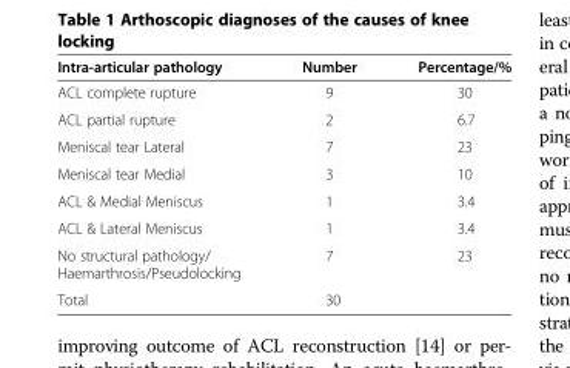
<table><thead><tr><td>Intra-articular pathology</td><td>Number</td><td>Percentage/%</td></tr></thead><tbody><tr><td>ACL complete rupture</td><td>9</td><td>30</td></tr><tr><td>ACL partial rupture</td><td>2</td><td>6.7</td></tr><tr><td>Meniscal tear Lateral</td><td>7</td><td>23</td></tr><tr><td>Meniscal tear Medial</td><td>3</td><td>10</td></tr><tr><td>ACL &amp; Medial Meniscus</td><td>1</td><td>3.4</td></tr><tr><td>ACL &amp; Lateral Meniscus</td><td>1</td><td>3.4</td></tr><tr><td>No structural pathology/ Haemarthrosis/Pseudolocking</td><td>7</td><td>23</td></tr><tr><td>Total</td><td>30</td><td></td></tr></tbody></table>